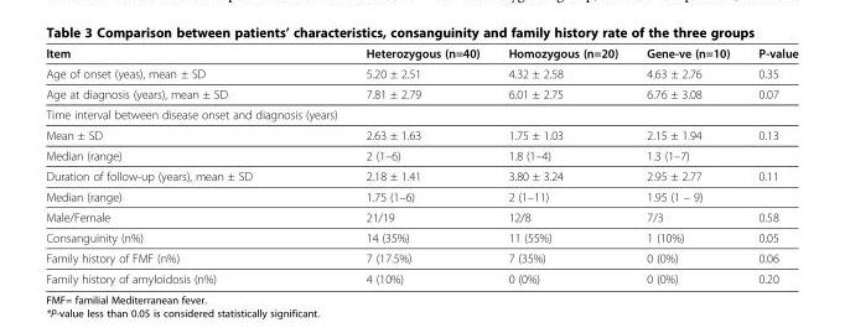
<table><thead><tr><td>Item</td><td>Heterozygous (n=40)</td><td>Homozygous (n=20)</td><td>Gene-ve (n=10)</td><td>P-value</td></tr></thead><tbody><tr><td>Age of onset (yeas), mean ± SD</td><td>5.20 ± 2.51</td><td>4.32 ± 2.58</td><td>4.63 ± 2.76</td><td>0.35</td></tr><tr><td>Age at diagnosis (years), mean ± SD</td><td>7.81 ± 2.79</td><td>6.01 ± 2.75</td><td>6.76 ± 3.08</td><td>0.07</td></tr><tr><td colspan="5">Time interval between disease onset and diagnosis (years)</td></tr><tr><td>Mean ± SD</td><td>2.63 ± 1.63</td><td>1.75 ± 1.03</td><td>2.15 ± 1.94</td><td>0.13</td></tr><tr><td>Median (range)</td><td>2 (1–6)</td><td>1.8 (1–4)</td><td>1.3 (1–7)</td><td></td></tr><tr><td>Duration of follow-up (years), mean ± SD</td><td>2.18 ± 1.41</td><td>3.80 ± 3.24</td><td>2.95 ± 2.77</td><td>0.11</td></tr><tr><td>Median (range)</td><td>1.75 (1–6)</td><td>2 (1–11)</td><td>1.95 (1 – 9)</td><td></td></tr><tr><td>Male/Female</td><td>21/19</td><td>12/8</td><td>7/3</td><td>0.58</td></tr><tr><td>Consanguinity (n%)</td><td>14 (35%)</td><td>11 (55%)</td><td>1 (10%)</td><td>0.05</td></tr><tr><td>Family history of FMF (n%)</td><td>7 (17.5%)</td><td>7 (35%)</td><td>0 (0%)</td><td>0.06</td></tr><tr><td>Family history of amyloidosis (n%)</td><td>4 (10%)</td><td>0 (0%)</td><td>0 (0%)</td><td>0.20</td></tr></tbody></table>